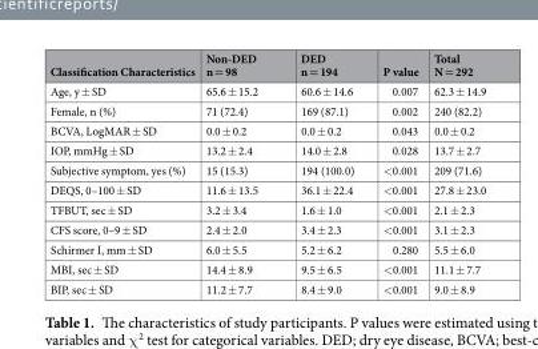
<table><thead><tr><td>Classification Characteristics</td><td>Non-DED n = 98</td><td>DED n = 194</td><td>P value</td><td>Total N = 292</td></tr></thead><tbody><tr><td>Age, y ± SD</td><td>65.6 ± 15.2</td><td>60.6 ± 14.6</td><td>0.007</td><td>62.3 ± 14.9</td></tr><tr><td>Female, n (%)</td><td>71 (72.4)</td><td>169 (87.1)</td><td>0.002</td><td>240 (82.2)</td></tr><tr><td>BCVA, LogMAR ± SD</td><td>0.0 ± 0.2</td><td>0.0 ± 0.2</td><td>0.043</td><td>0.0 ± 0.2</td></tr><tr><td>IOP, mmHg ± SD</td><td>13.2 ± 2.4</td><td>14.0 ± 2.8</td><td>0.028</td><td>13.7 ± 2.7</td></tr><tr><td>Subjective symptom, yes (%)</td><td>15 (15.3)</td><td>194 (100.0)</td><td>&lt;0.001</td><td>209 (71.6)</td></tr><tr><td>DEQS, 0–100 ± SD</td><td>11.6 ± 13.5</td><td>36.1 ± 22.4</td><td>&lt;0.001</td><td>27.8 ± 23.0</td></tr><tr><td>TFBUT, sec ± SD</td><td>3.2 ± 3.4</td><td>1.6 ± 1.0</td><td>&lt;0.001</td><td>2.1 ± 2.3</td></tr><tr><td>CFS score, 0–9 ± SD</td><td>2.4 ± 2.0</td><td>3.4 ± 2.3</td><td>&lt;0.001</td><td>3.1 ± 2.3</td></tr><tr><td>Schirmer Ι, mm ± SD</td><td>6.0 ± 5.5</td><td>5.2 ± 6.2</td><td>0.280</td><td>5.5 ± 6.0</td></tr><tr><td>MBI, sec ± SD</td><td>14.4 ± 8.9</td><td>9.5 ± 6.5</td><td>&lt;0.001</td><td>11.1 ± 7.7</td></tr><tr><td>BIP, sec ± SD</td><td>11.2 ± 7.7</td><td>8.4 ± 9.0</td><td>&lt;0.001</td><td>9.0 ± 8.9</td></tr></tbody></table>